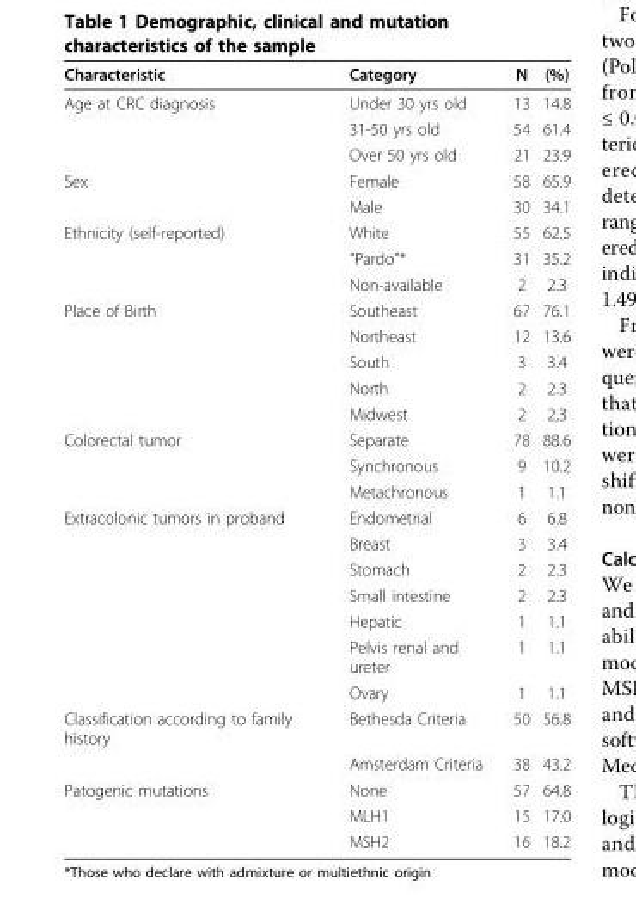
<table><thead><tr><td>Characteristic</td><td>Category</td><td>N</td><td>(%)</td></tr></thead><tbody><tr><td rowspan="3">Age at CRC diagnosis</td><td>Under 30 yrs old</td><td>13</td><td>14.8</td></tr><tr><td>31-50 yrs old</td><td>54</td><td>61.4</td></tr><tr><td>Over 50 yrs old</td><td>21</td><td>23.9</td></tr><tr><td rowspan="2">Sex</td><td>Female</td><td>58</td><td>65.9</td></tr><tr><td>Male</td><td>30</td><td>34.1</td></tr><tr><td rowspan="3">Ethnicity (self-reported)</td><td>White</td><td>55</td><td>62.5</td></tr><tr><td>“Pardo&quot;*</td><td>31</td><td>35.2</td></tr><tr><td>Non-available</td><td>2</td><td>2.3</td></tr><tr><td rowspan="5">Place of Birth</td><td>Southeast</td><td>67</td><td>76.1</td></tr><tr><td>Northeast</td><td>12</td><td>13.6</td></tr><tr><td>South</td><td>3</td><td>3.4</td></tr><tr><td>North</td><td>2</td><td>2.3</td></tr><tr><td>Midwest</td><td>2</td><td>2,3</td></tr><tr><td rowspan="3">Colorectal tumor</td><td>Separate</td><td>78</td><td>88.6</td></tr><tr><td>Synchronous</td><td>9</td><td>10.2</td></tr><tr><td>Metachronous</td><td>1</td><td>1.1</td></tr><tr><td rowspan="7">Extracolonic tumors in proband</td><td>Endometrial</td><td>6</td><td>6.8</td></tr><tr><td>Breast</td><td>3</td><td>3.4</td></tr><tr><td>Stomach</td><td>2</td><td>2.3</td></tr><tr><td>Small intestine</td><td>2</td><td>2.3</td></tr><tr><td>Hepatic</td><td>1</td><td>1.1</td></tr><tr><td>Pelvis renal and ureter</td><td>1</td><td>1.1</td></tr><tr><td>Ovary</td><td>1</td><td>1.1</td></tr><tr><td rowspan="2">Classification according to family history</td><td>Bethesda Criteria</td><td>50</td><td>56.8</td></tr><tr><td>Amsterdam Criteria</td><td>38</td><td>43.2</td></tr><tr><td rowspan="3">Patogenic mutations</td><td>None</td><td>57</td><td>64.8</td></tr><tr><td>MLH1</td><td>15</td><td>17.0</td></tr><tr><td>MSH2</td><td>16</td><td>18.2</td></tr></tbody></table>